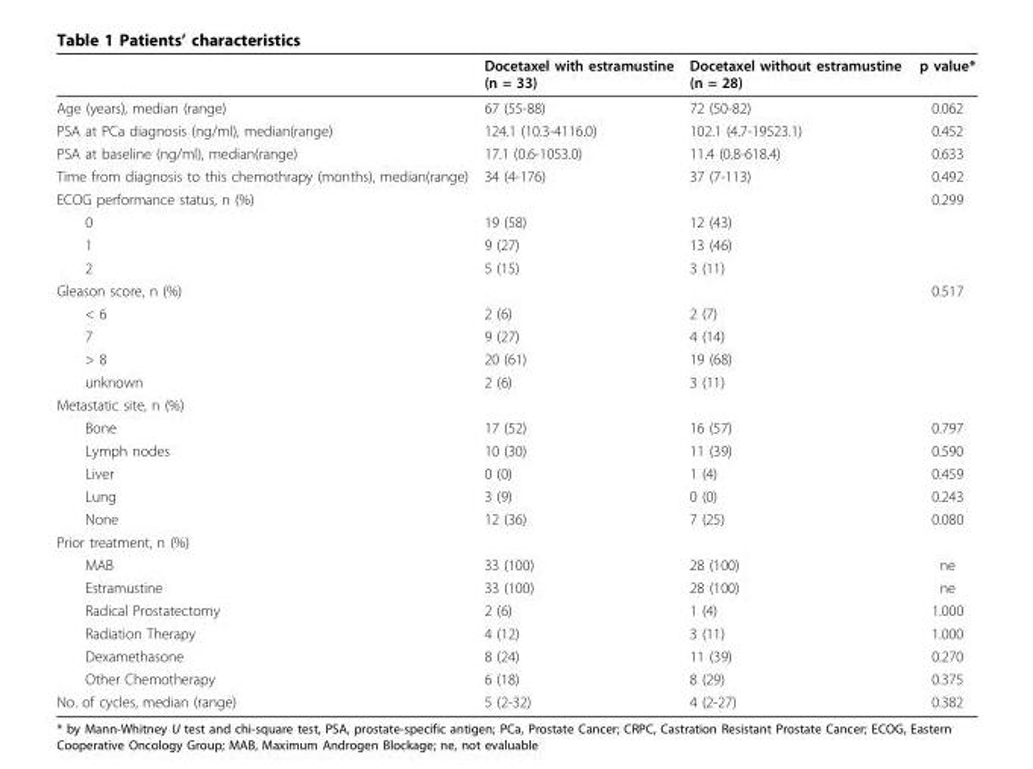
<table><thead><tr><td></td><td>Docetaxel with estramustine (n = 33)</td><td>Docetaxel without estramustine (n = 28)</td><td>p value*</td></tr></thead><tbody><tr><td>Age (years), median (range)</td><td>67 (55-88)</td><td>72 (50-82)</td><td>0.062</td></tr><tr><td>PSA at PCa diagnosis (ng/ml), median(range)</td><td>124.1 (10.3-4116.0)</td><td>102.1 (4.7-19523.1)</td><td>0.452</td></tr><tr><td>PSA at baseline (ng/ml), median(range)</td><td>17.1 (0.6-1053.0)</td><td>11.4 (0.8-618.4)</td><td>0.633</td></tr><tr><td>Time from diagnosis to this chemothrapy (months), median(range)</td><td>34 (4-176)</td><td>37 (7-113)</td><td>0.492</td></tr><tr><td>ECOG performance status, n (%)</td><td></td><td></td><td>0.299</td></tr><tr><td>0</td><td>19 (58)</td><td>12 (43)</td><td></td></tr><tr><td>1</td><td>9 (27)</td><td>13 (46)</td><td></td></tr><tr><td>2</td><td>5 (15)</td><td>3 (11)</td><td></td></tr><tr><td>Gleason score, n (%)</td><td></td><td></td><td>0.517</td></tr><tr><td>&lt; 6</td><td>2 (6)</td><td>2 (7)</td><td></td></tr><tr><td>7</td><td>9 (27)</td><td>4 (14)</td><td></td></tr><tr><td>&gt; 8</td><td>20 (61)</td><td>19 (68)</td><td></td></tr><tr><td>unknown</td><td>2 (6)</td><td>3 (11)</td><td></td></tr><tr><td colspan="4">Metastatic site, n (%)</td></tr><tr><td>Bone</td><td>17 (52)</td><td>16 (57)</td><td>0.797</td></tr><tr><td>Lymph nodes</td><td>10 (30)</td><td>11 (39)</td><td>0.590</td></tr><tr><td>Liver</td><td>0 (0)</td><td>1 (4)</td><td>0.459</td></tr><tr><td>Lung</td><td>3 (9)</td><td>0 (0)</td><td>0.243</td></tr><tr><td>None</td><td>12 (36)</td><td>7 (25)</td><td>0.080</td></tr><tr><td colspan="4">Prior treatment, n (%)</td></tr><tr><td>MAB</td><td>33 (100)</td><td>28 (100)</td><td>ne</td></tr><tr><td>Estramustine</td><td>33 (100)</td><td>28 (100)</td><td>ne</td></tr><tr><td>Radical Prostatectomy</td><td>2 (6)</td><td>1 (4)</td><td>1.000</td></tr><tr><td>Radiation Therapy</td><td>4 (12)</td><td>3 (11)</td><td>1.000</td></tr><tr><td>Dexamethasone</td><td>8 (24)</td><td>11 (39)</td><td>0.270</td></tr><tr><td>Other Chemotherapy</td><td>6 (18)</td><td>8 (29)</td><td>0.375</td></tr><tr><td>No. of cycles, median (range)</td><td>5 (2-32)</td><td>4 (2-27)</td><td>0.382</td></tr></tbody></table>